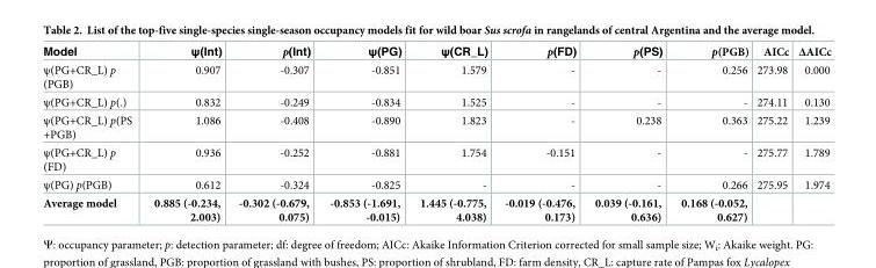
<table><thead><tr><td>Model</td><td>ψ(Int)</td><td>p(Int)</td><td>ψ(PG)</td><td>ψ(CR_L)</td><td>p(FD)</td><td>p(PS)</td><td>p(PGB)</td><td>AICc</td><td>ΔAICc</td></tr></thead><tbody><tr><td>ψ(PG+CR_L) p (PGB)</td><td>0.907</td><td>-0.307</td><td>-0.851</td><td>1.579</td><td>-</td><td>-</td><td>0.256</td><td>273.98</td><td>0.000</td></tr><tr><td>ψ(PG+CR_L) p(.)</td><td>0.832</td><td>-0.249</td><td>-0.834</td><td>1.525</td><td>-</td><td>-</td><td>-</td><td>274.11</td><td>0.130</td></tr><tr><td>ψ(PG+CR_L) p(PS +PGB)</td><td>1.086</td><td>-0.408</td><td>-0.890</td><td>1.823</td><td>-</td><td>0.238</td><td>0.363</td><td>275.22</td><td>1.239</td></tr><tr><td>ψ(PG+CR_L) p (FD)</td><td>0.936</td><td>-0.252</td><td>-0.881</td><td>1.754</td><td>-0.151</td><td>-</td><td>-</td><td>275.77</td><td>1.789</td></tr><tr><td>ψ(PG) p(PGB)</td><td>0.612</td><td>-0.324</td><td>-0.825</td><td>-</td><td>-</td><td>-</td><td>0.266</td><td>275.95</td><td>1.974</td></tr><tr><td>Average model</td><td>0.885 (-0.234, 2.003)</td><td>-0.302 (-0.679, 0.075)</td><td>-0.853 (-1.691, -0.015)</td><td>1.445 (-0.775, 4.038)</td><td>-0.019 (-0.476, 0.173)</td><td>0.039 (-0.161, 0.636)</td><td>0.168 (-0.052, 0.627)</td><td></td><td></td></tr></tbody></table>